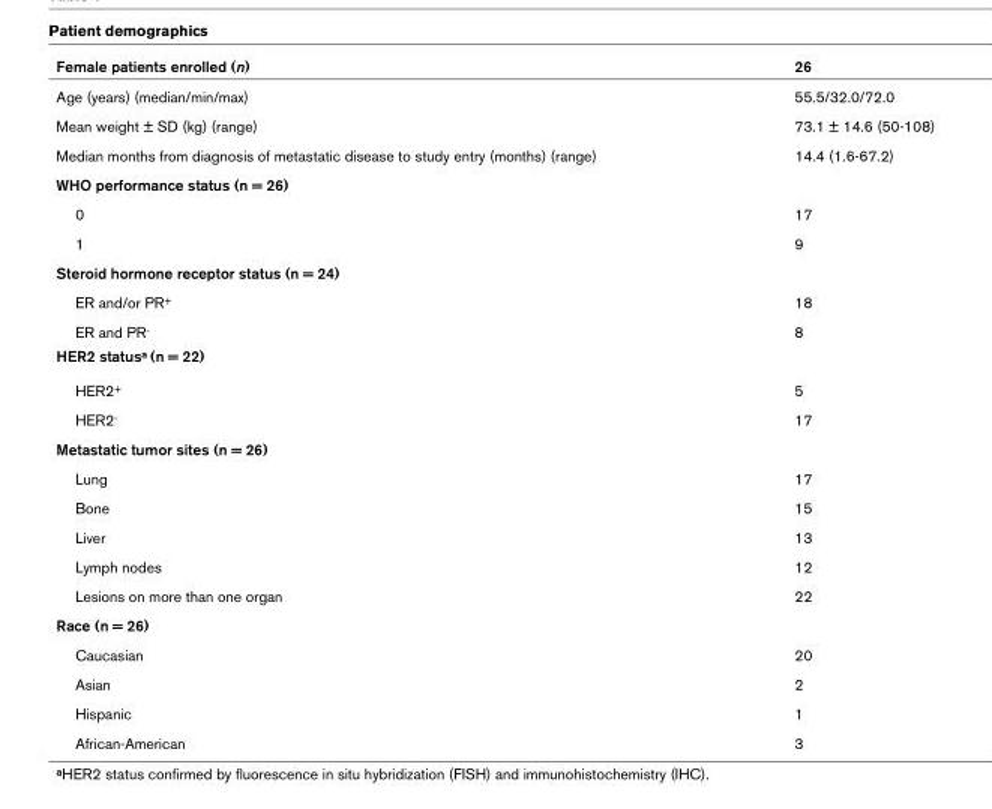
<table><thead><tr><td>Female patients enrolled (n)</td><td>26</td></tr></thead><tbody><tr><td>Age (years) (median/min/max)</td><td>55.5/32.0/72.0</td></tr><tr><td>Mean weight ± SD (kg) (range)</td><td>73.1 ± 14.6 (50-108)</td></tr><tr><td>Median months from diagnosis of metastatic disease to study entry (months) (range)</td><td>14.4 (1.6-67.2)</td></tr><tr><td colspan="2">WHO performance status (n = 26)</td></tr><tr><td>0</td><td>17</td></tr><tr><td>1</td><td>9</td></tr><tr><td colspan="2">Steroid hormone receptor status (n = 24)</td></tr><tr><td>ER and/or PR<sup>+</sup></td><td>18</td></tr><tr><td>ER and PR<sup>-</sup></td><td>8</td></tr><tr><td colspan="2">HER2 status<sup>a</sup> (n = 22)</td></tr><tr><td>HER2<sup>+</sup></td><td>5</td></tr><tr><td>HER2<sup>-</sup></td><td>17</td></tr><tr><td colspan="2">Metastatic tumor sites (n = 26)</td></tr><tr><td>Lung</td><td>17</td></tr><tr><td>Bone</td><td>15</td></tr><tr><td>Liver</td><td>13</td></tr><tr><td>Lymph nodes</td><td>12</td></tr><tr><td>Lesions on more than one organ</td><td>22</td></tr><tr><td colspan="2">Race (n = 26)</td></tr><tr><td>Caucasian</td><td>20</td></tr><tr><td>Asian</td><td>2</td></tr><tr><td>Hispanic</td><td>1</td></tr><tr><td>African-American</td><td>3</td></tr></tbody></table>